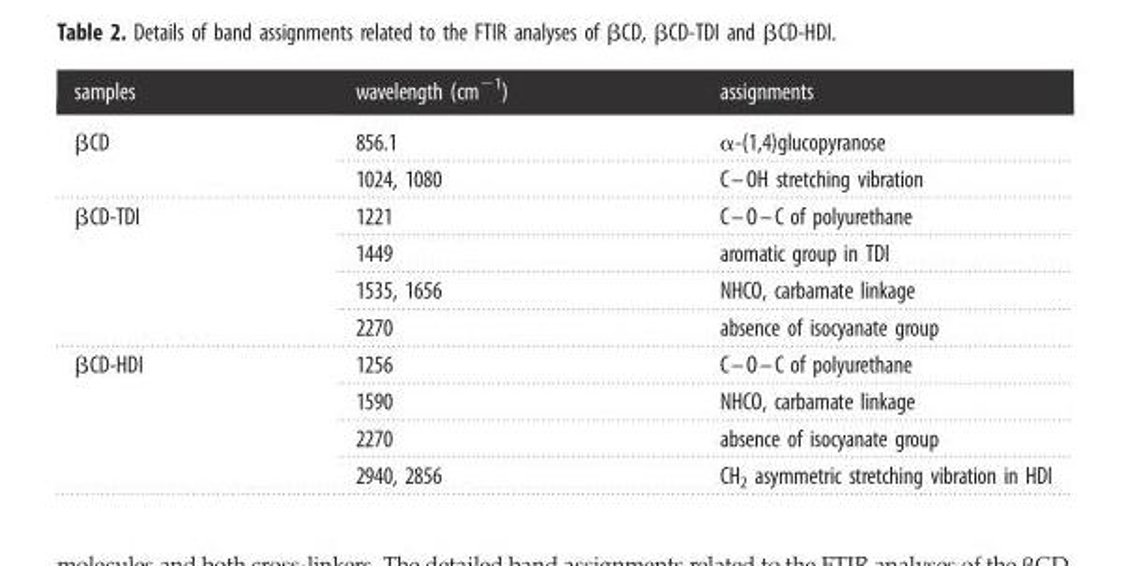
<table><thead><tr><td>samples</td><td>wavelength (cm<sup>−1</sup>)</td><td>assignments</td></tr></thead><tbody><tr><td rowspan="2">βCD</td><td>856.1</td><td>α-(1,4)glucopyranose</td></tr><tr><td>1024, 1080</td><td>C–OH stretching vibration</td></tr><tr><td rowspan="4">βCD-TDI</td><td>1221</td><td>C–O–C of polyurethane</td></tr><tr><td>1449</td><td>aromatic group in TDI</td></tr><tr><td>1535, 1656</td><td>NHCO, carbamate linkage</td></tr><tr><td>2270</td><td>absence of isocyanate group</td></tr><tr><td rowspan="4">βCD-HDI</td><td>1256</td><td>C–O–C of polyurethane</td></tr><tr><td>1590</td><td>NHCO, carbamate linkage</td></tr><tr><td>2270</td><td>absence of isocyanate group</td></tr><tr><td>2940, 2856</td><td>CH<sub>2</sub> asymmetric stretching vibration in HDI</td></tr></tbody></table>